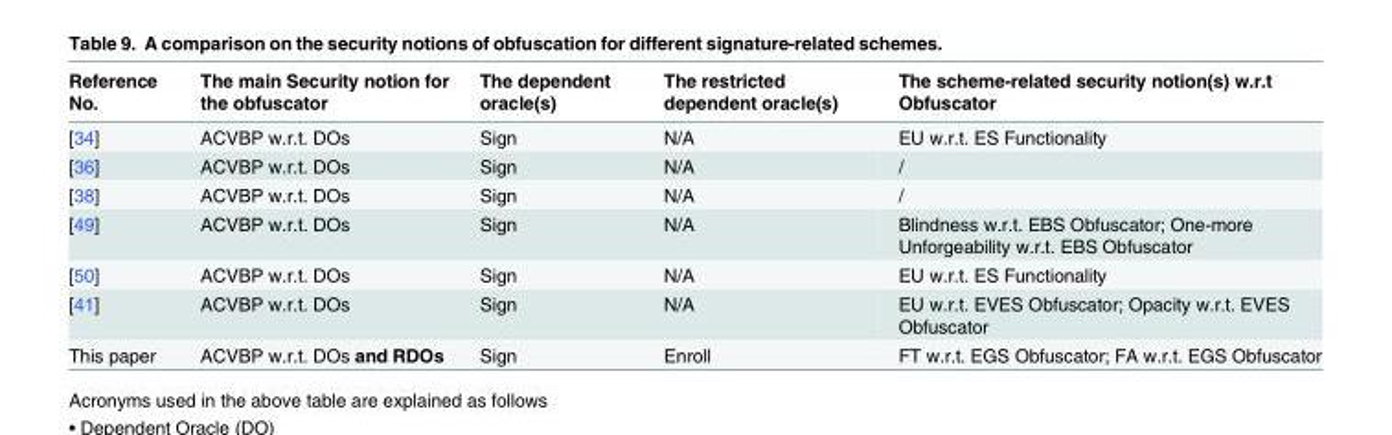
<table><thead><tr><td>Reference No.</td><td>The main Security notion for the obfuscator</td><td>The dependent oracle(s)</td><td>The restricted dependent oracle(s)</td><td>The scheme-related security notion(s) w.r.t Obfuscator</td></tr></thead><tbody><tr><td>[34]</td><td>ACVBP w.r.t. DOs</td><td>Sign</td><td>N/A</td><td>EU w.r.t. ES Functionality</td></tr><tr><td>[36]</td><td>ACVBP w.r.t. DOs</td><td>Sign</td><td>N/A</td><td>/</td></tr><tr><td>[38]</td><td>ACVBP w.r.t. DOs</td><td>Sign</td><td>N/A</td><td>/</td></tr><tr><td>[49]</td><td>ACVBP w.r.t. DOs</td><td>Sign</td><td>N/A</td><td>Blindness w.r.t. EBS Obfuscator; One-more Unforgeability w.r.t. EBS Obfuscator</td></tr><tr><td>[50]</td><td>ACVBP w.r.t. DOs</td><td>Sign</td><td>N/A</td><td>EU w.r.t. ES Functionality</td></tr><tr><td>[41]</td><td>ACVBP w.r.t. DOs</td><td>Sign</td><td>N/A</td><td>EU w.r.t. EVES Obfuscator; Opacity w.r.t. EVES Obfuscator</td></tr><tr><td>This paper</td><td>ACVBP w.r.t. DOs and RDOs</td><td>Sign</td><td>Enroll</td><td>FT w.r.t. EGS Obfuscator; FA w.r.t. EGS Obfuscator</td></tr></tbody></table>